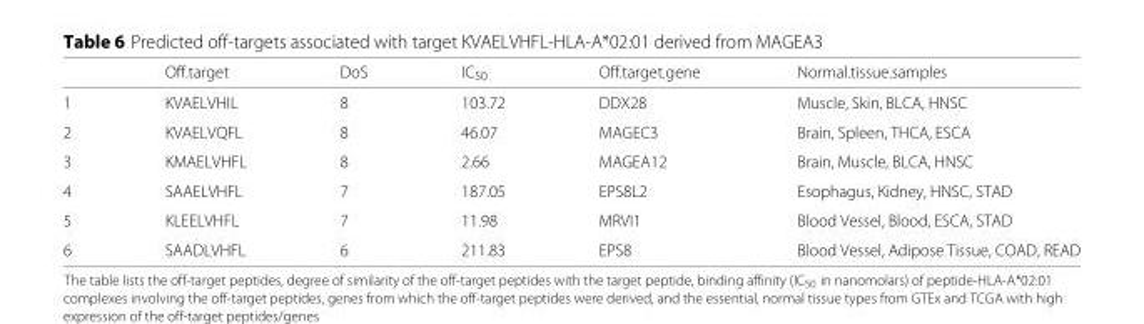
<table><thead><tr><td></td><td>Off.target</td><td>DoS</td><td>IC<sub>50</sub></td><td>Off.target.gene</td><td>Normal.tissue.samples</td></tr></thead><tbody><tr><td>1</td><td>KVAELVHIL</td><td>8</td><td>103.72</td><td>DDX28</td><td>Muscle, Skin, BLCA, HNSC</td></tr><tr><td>2</td><td>KVAELVQFL</td><td>8</td><td>46.07</td><td>MAGEC3</td><td>Brain, Spleen, THCA, ESCA</td></tr><tr><td>3</td><td>KMAELVHFL</td><td>8</td><td>2.66</td><td>MAGEA12</td><td>Brain, Muscle, BLCA, HNSC</td></tr><tr><td>4</td><td>SAAELVHFL</td><td>7</td><td>187.05</td><td>EPS8L2</td><td>Esophagus, Kidney, HNSC, STAD</td></tr><tr><td>5</td><td>KLEELVHFL</td><td>7</td><td>11.98</td><td>MRVI1</td><td>Blood Vessel, Blood, ESCA, STAD</td></tr><tr><td>6</td><td>SAADLVHFL</td><td>6</td><td>211.83</td><td>EPS8</td><td>Blood Vessel, Adipose Tissue, COAD, READ</td></tr></tbody></table>